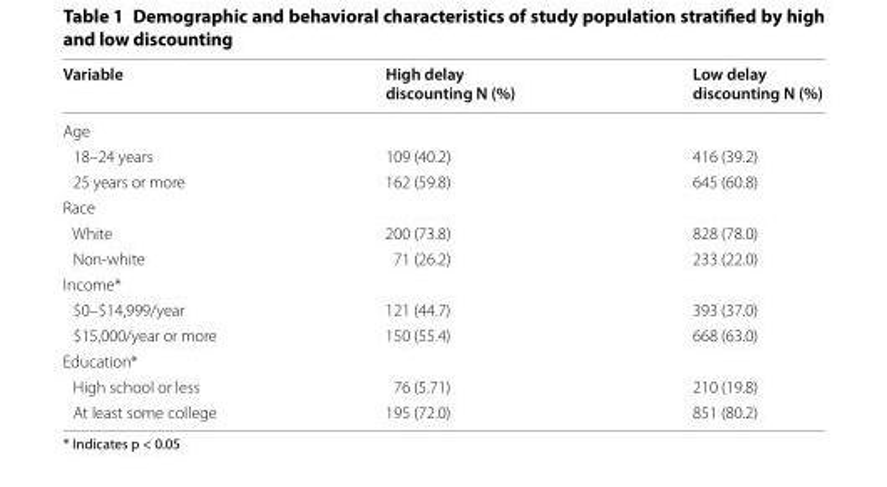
<table><thead><tr><td>Variable</td><td>High delay discounting N (%)</td><td>Low delay discounting N (%)</td></tr></thead><tbody><tr><td colspan="3">Age</td></tr><tr><td>18–24 years</td><td>109 (40.2)</td><td>416 (39.2)</td></tr><tr><td>25 years or more</td><td>162 (59.8)</td><td>645 (60.8)</td></tr><tr><td colspan="3">Race</td></tr><tr><td>White</td><td>200 (73.8)</td><td>828 (78.0)</td></tr><tr><td>Non-white</td><td>71 (26.2)</td><td>233 (22.0)</td></tr><tr><td colspan="3">Income*</td></tr><tr><td>$0–$14,999/year</td><td>121 (44.7)</td><td>393 (37.0)</td></tr><tr><td>$15,000/year or more</td><td>150 (55.4)</td><td>668 (63.0)</td></tr><tr><td colspan="3">Education*</td></tr><tr><td>High school or less</td><td>76 (5.71)</td><td>210 (19.8)</td></tr><tr><td>At least some college</td><td>195 (72.0)</td><td>851 (80.2)</td></tr></tbody></table>